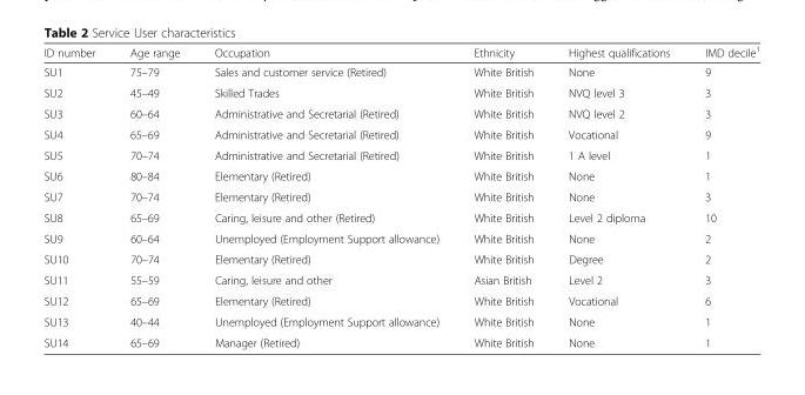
<table><thead><tr><td>ID number</td><td>Age range</td><td>Occupation</td><td>Ethnicity</td><td>Highest qualifications</td><td>IMD decile<sup>1</sup></td></tr></thead><tbody><tr><td>SU1</td><td>75–79</td><td>Sales and customer service (Retired)</td><td>White British</td><td>None</td><td>9</td></tr><tr><td>SU2</td><td>45–49</td><td>Skilled Trades</td><td>White British</td><td>NVQ level 3</td><td>3</td></tr><tr><td>SU3</td><td>60–64</td><td>Administrative and Secretarial (Retired)</td><td>White British</td><td>NVQ level 2</td><td>3</td></tr><tr><td>SU4</td><td>65–69</td><td>Administrative and Secretarial (Retired)</td><td>White British</td><td>Vocational</td><td>9</td></tr><tr><td>SU5</td><td>70–74</td><td>Administrative and Secretarial (Retired)</td><td>White British</td><td>1 A level</td><td>1</td></tr><tr><td>SU6</td><td>80–84</td><td>Elementary (Retired)</td><td>White British</td><td>None</td><td>1</td></tr><tr><td>SU7</td><td>70–74</td><td>Elementary (Retired)</td><td>White British</td><td>None</td><td>3</td></tr><tr><td>SU8</td><td>65–69</td><td>Caring, leisure and other (Retired)</td><td>White British</td><td>Level 2 diploma</td><td>10</td></tr><tr><td>SU9</td><td>60–64</td><td>Unemployed (Employment Support allowance)</td><td>White British</td><td>None</td><td>2</td></tr><tr><td>SU10</td><td>70–74</td><td>Elementary (Retired)</td><td>White British</td><td>Degree</td><td>2</td></tr><tr><td>SU11</td><td>55–59</td><td>Caring, leisure and other</td><td>Asian British</td><td>Level 2</td><td>3</td></tr><tr><td>SU12</td><td>65–69</td><td>Elementary (Retired)</td><td>White British</td><td>Vocational</td><td>6</td></tr><tr><td>SU13</td><td>40–44</td><td>Unemployed (Employment Support allowance)</td><td>White British</td><td>None</td><td>1</td></tr><tr><td>SU14</td><td>65–69</td><td>Manager (Retired)</td><td>White British</td><td>None</td><td>1</td></tr></tbody></table>